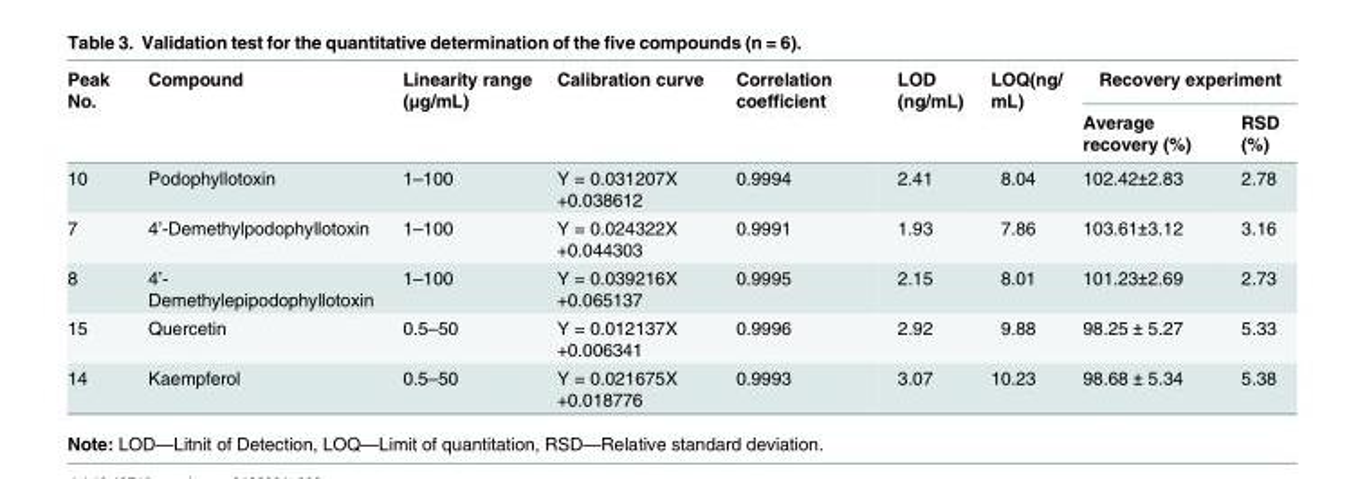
<table><thead><tr><td rowspan="2">Peak No.</td><td rowspan="2">Compound</td><td rowspan="2">Linearity range (μg/mL)</td><td rowspan="2">Calibration curve</td><td rowspan="2">Correlation coefficient</td><td rowspan="2">LOD (ng/mL)</td><td rowspan="2">LOQ(ng/ mL)</td><td colspan="2">Recovery experiment</td></tr><tr><td>Average recovery (%)</td><td>RSD (%)</td></tr></thead><tbody><tr><td>10</td><td>Podophyllotoxin</td><td>1–100</td><td>Y = 0.031207X +0.038612</td><td>0.9994</td><td>2.41</td><td>8.04</td><td>102.42±2.83</td><td>2.78</td></tr><tr><td>7</td><td>4’-Demethylpodophyllotoxin</td><td>1–100</td><td>Y = 0.024322X +0.044303</td><td>0.9991</td><td>1.93</td><td>7.86</td><td>103.61±3.12</td><td>3.16</td></tr><tr><td>8</td><td>4’- Demethylepipodophyllotoxin</td><td>1–100</td><td>Y = 0.039216X +0.065137</td><td>0.9995</td><td>2.15</td><td>8.01</td><td>101.23±2.69</td><td>2.73</td></tr><tr><td>15</td><td>Quercetin</td><td>0.5–50</td><td>Y = 0.012137X +0.006341</td><td>0.9996</td><td>2.92</td><td>9.88</td><td>98.25 ± 5.27</td><td>5.33</td></tr><tr><td>14</td><td>Kaempferol</td><td>0.5–50</td><td>Y = 0.021675X +0.018776</td><td>0.9993</td><td>3.07</td><td>10.23</td><td>98.68 ± 5.34</td><td>5.38</td></tr></tbody></table>